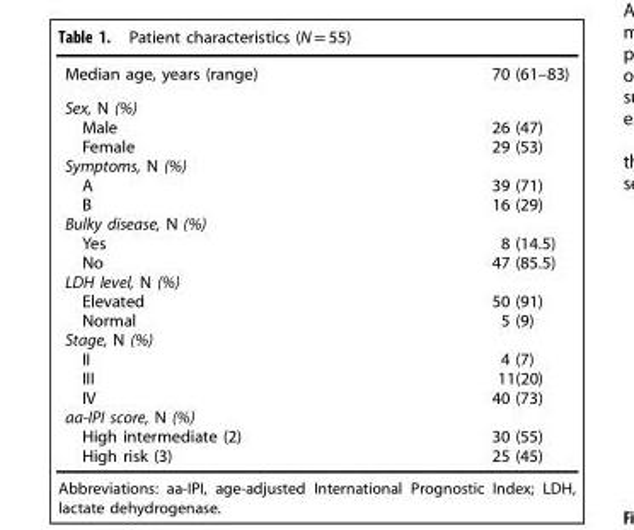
<table><tbody><tr><td>Median age, years (range)</td><td>70 (61–83)</td></tr><tr><td colspan="2">Sex, N (%)</td></tr><tr><td>Male</td><td>26 (47)</td></tr><tr><td>Female</td><td>29 (53)</td></tr><tr><td colspan="2">Symptoms, N (%)</td></tr><tr><td>A</td><td>39 (71)</td></tr><tr><td>B</td><td>16 (29)</td></tr><tr><td colspan="2">Bulky disease, N (%)</td></tr><tr><td>Yes</td><td>8 (14.5)</td></tr><tr><td>No</td><td>47 (85.5)</td></tr><tr><td colspan="2">LDH level, N (%)</td></tr><tr><td>Elevated</td><td>50 (91)</td></tr><tr><td>Normal</td><td>5 (9)</td></tr><tr><td colspan="2">Stage, N (%)</td></tr><tr><td>II</td><td>4 (7)</td></tr><tr><td>III</td><td>11(20)</td></tr><tr><td>IV</td><td>40 (73)</td></tr><tr><td colspan="2">aa-IPI score, N (%)</td></tr><tr><td>High intermediate (2)</td><td>30 (55)</td></tr><tr><td>High risk (3)</td><td>25 (45)</td></tr></tbody></table>